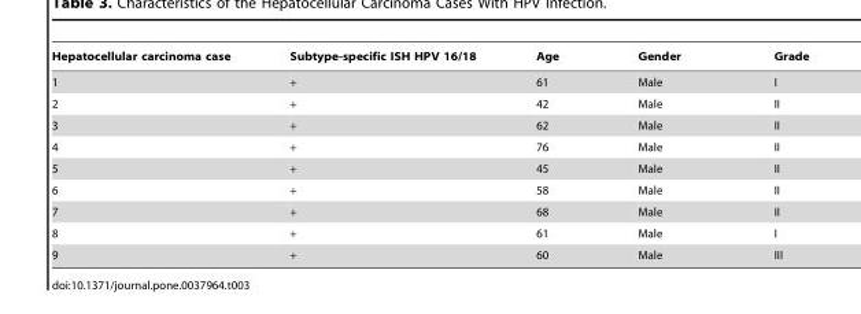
<table><thead><tr><td>Hepatocellular carcinoma case</td><td>Subtype-specific ISH HPV 16/18</td><td>Age</td><td>Gender</td><td>Grade</td></tr></thead><tbody><tr><td>1</td><td>+</td><td>61</td><td>Male</td><td>I</td></tr><tr><td>2</td><td>+</td><td>42</td><td>Male</td><td>II</td></tr><tr><td>3</td><td>+</td><td>62</td><td>Male</td><td>II</td></tr><tr><td>4</td><td>+</td><td>76</td><td>Male</td><td>II</td></tr><tr><td>5</td><td>+</td><td>45</td><td>Male</td><td>II</td></tr><tr><td>6</td><td>+</td><td>58</td><td>Male</td><td>II</td></tr><tr><td>7</td><td>+</td><td>68</td><td>Male</td><td>II</td></tr><tr><td>8</td><td>+</td><td>61</td><td>Male</td><td>I</td></tr><tr><td>9</td><td>+</td><td>60</td><td>Male</td><td>III</td></tr></tbody></table>